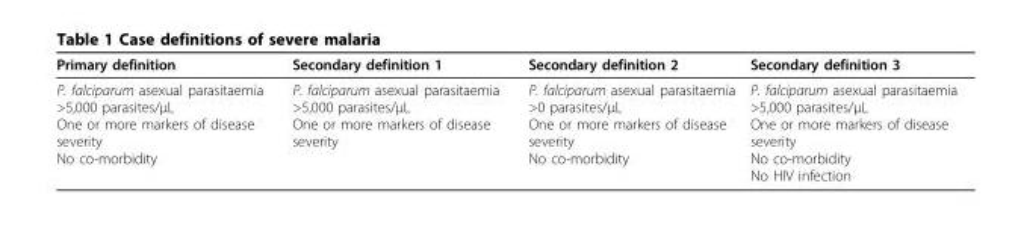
<table><thead><tr><td>Primary definition</td><td>Secondary definition 1</td><td>Secondary definition 2</td><td>Secondary definition 3</td></tr></thead><tbody><tr><td>P. falciparum asexual parasitaemia &gt;5,000 parasites/μL One or more markers of disease severity No co-morbidity</td><td>P. falciparum asexual parasitaemia &gt;5,000 parasites/μL One or more markers of disease severity</td><td>P. falciparum asexual parasitaemia &gt;0 parasites/μL One or more markers of disease severity No co-morbidity</td><td>P. falciparum asexual parasitaemia &gt;5,000 parasites/μL One or more markers of disease severity No co-morbidity No HIV infection</td></tr></tbody></table>